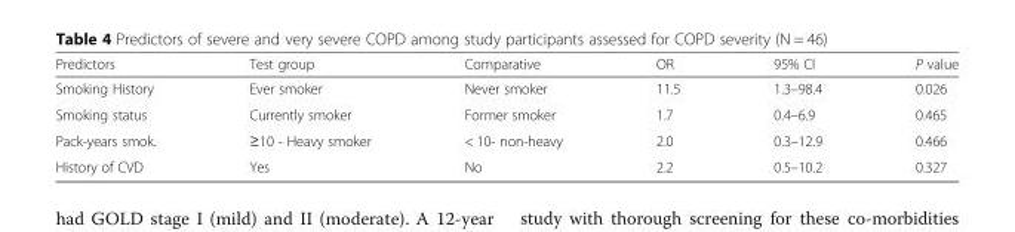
<table><thead><tr><td>Predictors</td><td>Test group</td><td>Comparative</td><td>OR</td><td>95% CI</td><td>P value</td></tr></thead><tbody><tr><td>Smoking History</td><td>Ever smoker</td><td>Never smoker</td><td>11.5</td><td>1.3–98.4</td><td>0.026</td></tr><tr><td>Smoking status</td><td>Currently smoker</td><td>Former smoker</td><td>1.7</td><td>0.4–6.9</td><td>0.465</td></tr><tr><td>Pack-years smok.</td><td>≥10 - Heavy smoker</td><td>&lt; 10- non-heavy</td><td>2.0</td><td>0.3–12.9</td><td>0.466</td></tr><tr><td>History of CVD</td><td>Yes</td><td>No</td><td>2.2</td><td>0.5–10.2</td><td>0.327</td></tr></tbody></table>